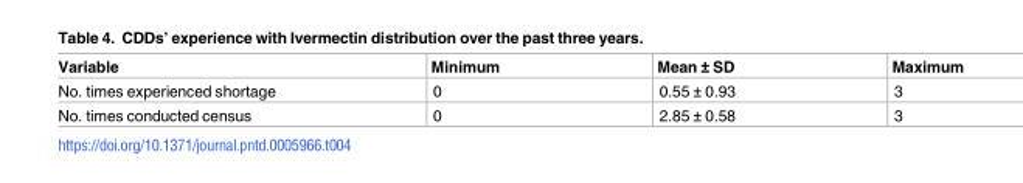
<table><thead><tr><td>Variable</td><td>Minimum</td><td>Mean ± SD</td><td>Maximum</td></tr></thead><tbody><tr><td>No. times experienced shortage</td><td>0</td><td>0.55 ± 0.93</td><td>3</td></tr><tr><td>No. times conducted census</td><td>0</td><td>2.85 ± 0.58</td><td>3</td></tr></tbody></table>